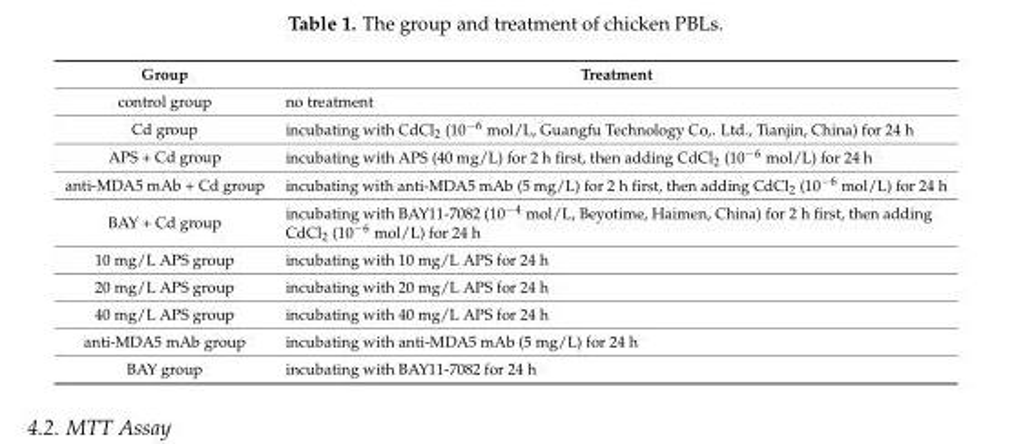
<table><thead><tr><td>Group</td><td>Treatment</td></tr></thead><tbody><tr><td>control group</td><td>no treatment</td></tr><tr><td>Cd group</td><td>incubating with CdCl<sub>2</sub> (10<sup>−6</sup> mol/L, Guangfu Technology Co,. Ltd., Tianjin, China) for 24 h</td></tr><tr><td>APS + Cd group</td><td>incubating with APS (40 mg/L) for 2 h first, then adding CdCl<sub>2</sub> (10<sup>−6</sup> mol/L) for 24 h</td></tr><tr><td>anti-MDA5 mAb + Cd group</td><td>incubating with anti-MDA5 mAb (5 mg/L) for 2 h first, then adding CdCl<sub>2</sub> (10<sup>−6</sup> mol/L) for 24 h</td></tr><tr><td>BAY + Cd group</td><td>incubating with BAY11-7082 (10<sup>−4</sup> mol/L, Beyotime, Haimen, China) for 2 h first, then adding CdCl<sub>2</sub> (10<sup>−6</sup> mol/L) for 24 h</td></tr><tr><td>10 mg/L APS group</td><td>incubating with 10 mg/L APS for 24 h</td></tr><tr><td>20 mg/L APS group</td><td>incubating with 20 mg/L APS for 24 h</td></tr><tr><td>40 mg/L APS group</td><td>incubating with 40 mg/L APS for 24 h</td></tr><tr><td>anti-MDA5 mAb group</td><td>incubating with anti-MDA5 mAb (5 mg/L) for 24 h</td></tr><tr><td>BAY group</td><td>incubating with BAY11-7082 for 24 h</td></tr></tbody></table>